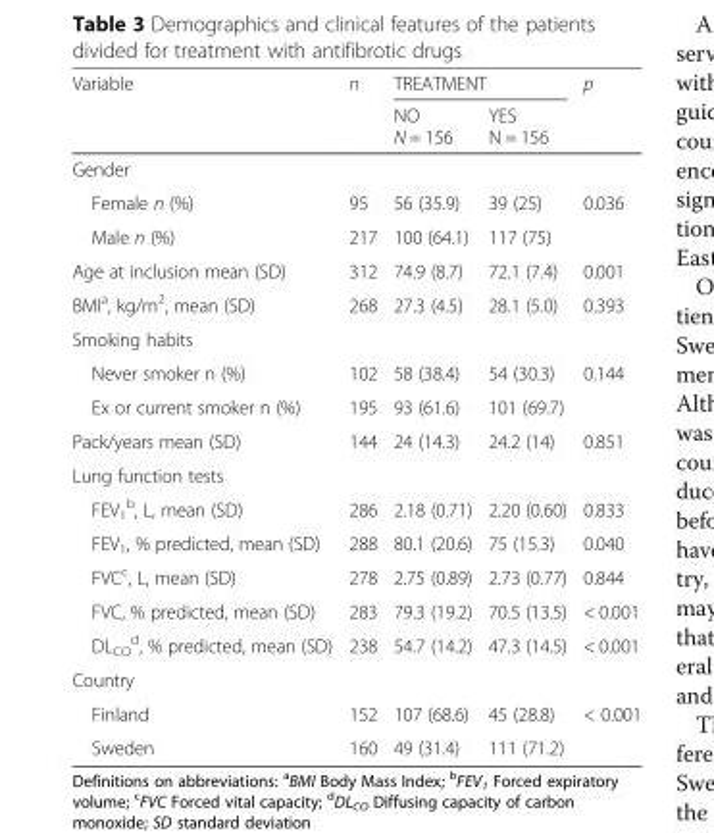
<table><thead><tr><td rowspan="2">Variable</td><td rowspan="2">n</td><td colspan="2">TREATMENT</td><td rowspan="2">p</td></tr><tr><td>NO N = 156</td><td>YES N = 156</td></tr></thead><tbody><tr><td colspan="5">Gender</td></tr><tr><td>Female n (%)</td><td>95</td><td>56 (35.9)</td><td>39 (25)</td><td rowspan="2">0.036</td></tr><tr><td>Male n (%)</td><td>217</td><td>100 (64.1)</td><td>117 (75)</td></tr><tr><td>Age at inclusion mean (SD)</td><td>312</td><td>74.9 (8.7)</td><td>72.1 (7.4)</td><td>0.001</td></tr><tr><td>BMI<sup>a</sup>, kg/m<sup>2</sup>, mean (SD)</td><td>268</td><td>27.3 (4.5)</td><td>28.1 (5.0)</td><td>0.393</td></tr><tr><td colspan="5">Smoking habits</td></tr><tr><td>Never smoker n (%)</td><td>102</td><td>58 (38.4)</td><td>54 (30.3)</td><td rowspan="2">0.144</td></tr><tr><td>Ex or current smoker n (%)</td><td>195</td><td>93 (61.6)</td><td>101 (69.7)</td></tr><tr><td>Pack/years mean (SD)</td><td>144</td><td>24 (14.3)</td><td>24.2 (14)</td><td>0.851</td></tr><tr><td colspan="5">Lung function tests</td></tr><tr><td>FEV<sub>1</sub> <sup>b</sup>, L, mean (SD)</td><td>286</td><td>2.18 (0.71)</td><td>2.20 (0.60)</td><td>0.833</td></tr><tr><td>FEV<sub>1</sub>, % predicted, mean (SD)</td><td>288</td><td>80.1 (20.6)</td><td>75 (15.3)</td><td>0.040</td></tr><tr><td>FVC<sup>c</sup>, L, mean (SD)</td><td>278</td><td>2.75 (0.89)</td><td>2.73 (0.77)</td><td>0.844</td></tr><tr><td>FVC, % predicted, mean (SD)</td><td>283</td><td>79.3 (19.2)</td><td>70.5 (13.5)</td><td>&lt; 0.001</td></tr><tr><td>DL<sub>CO</sub> <sup>d</sup>, % predicted, mean (SD)</td><td>238</td><td>54.7 (14.2)</td><td>47.3 (14.5)</td><td>&lt; 0.001</td></tr><tr><td colspan="5">Country</td></tr><tr><td>Finland</td><td>152</td><td>107 (68.6)</td><td>45 (28.8)</td><td rowspan="2">&lt; 0.001</td></tr><tr><td>Sweden</td><td>160</td><td>49 (31.4)</td><td>111 (71.2)</td></tr></tbody></table>